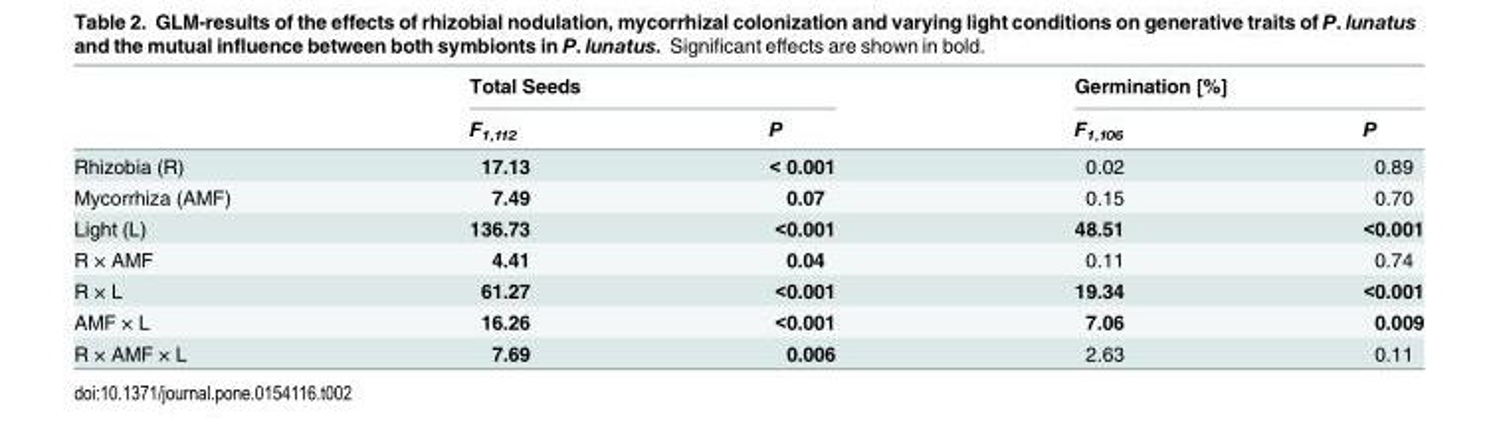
<table><thead><tr><td rowspan="2"></td><td colspan="2">Total Seeds</td><td colspan="2">Germination [%]</td></tr><tr><td>F<sub>1,112</sub></td><td>P</td><td>F<sub>1,106</sub></td><td>P</td></tr></thead><tbody><tr><td>Rhizobia (R)</td><td>17.13</td><td>&lt; 0.001</td><td>0.02</td><td>0.89</td></tr><tr><td>Mycorrhiza (AMF)</td><td>7.49</td><td>0.07</td><td>0.15</td><td>0.70</td></tr><tr><td>Light (L)</td><td>136.73</td><td>&lt;0.001</td><td>48.51</td><td>&lt;0.001</td></tr><tr><td>R × AMF</td><td>4.41</td><td>0.04</td><td>0.11</td><td>0.74</td></tr><tr><td>R × L</td><td>61.27</td><td>&lt;0.001</td><td>19.34</td><td>&lt;0.001</td></tr><tr><td>AMF × L</td><td>16.26</td><td>&lt;0.001</td><td>7.06</td><td>0.009</td></tr><tr><td>R × AMF × L</td><td>7.69</td><td>0.006</td><td>2.63</td><td>0.11</td></tr></tbody></table>